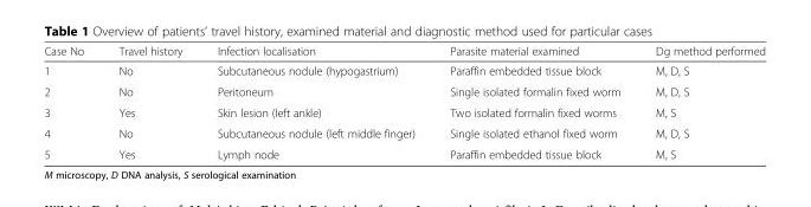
<table><thead><tr><td>Case No</td><td>Travel history</td><td>Infection localisation</td><td>Parasite material examined</td><td>Dg method performed</td></tr></thead><tbody><tr><td>1</td><td>No</td><td>Subcutaneous nodule (hypogastrium)</td><td>Paraffin embedded tissue block</td><td>M, D, S</td></tr><tr><td>2</td><td>No</td><td>Peritoneum</td><td>Single isolated formalin fixed worm</td><td>M, D, S</td></tr><tr><td>3</td><td>Yes</td><td>Skin lesion (left ankle)</td><td>Two isolated formalin fixed worms</td><td>M, S</td></tr><tr><td>4</td><td>No</td><td>Subcutaneous nodule (left middle finger)</td><td>Single isolated ethanol fixed worm</td><td>M, D, S</td></tr><tr><td>5</td><td>Yes</td><td>Lymph node</td><td>Paraffin embedded tissue block</td><td>M, S</td></tr></tbody></table>